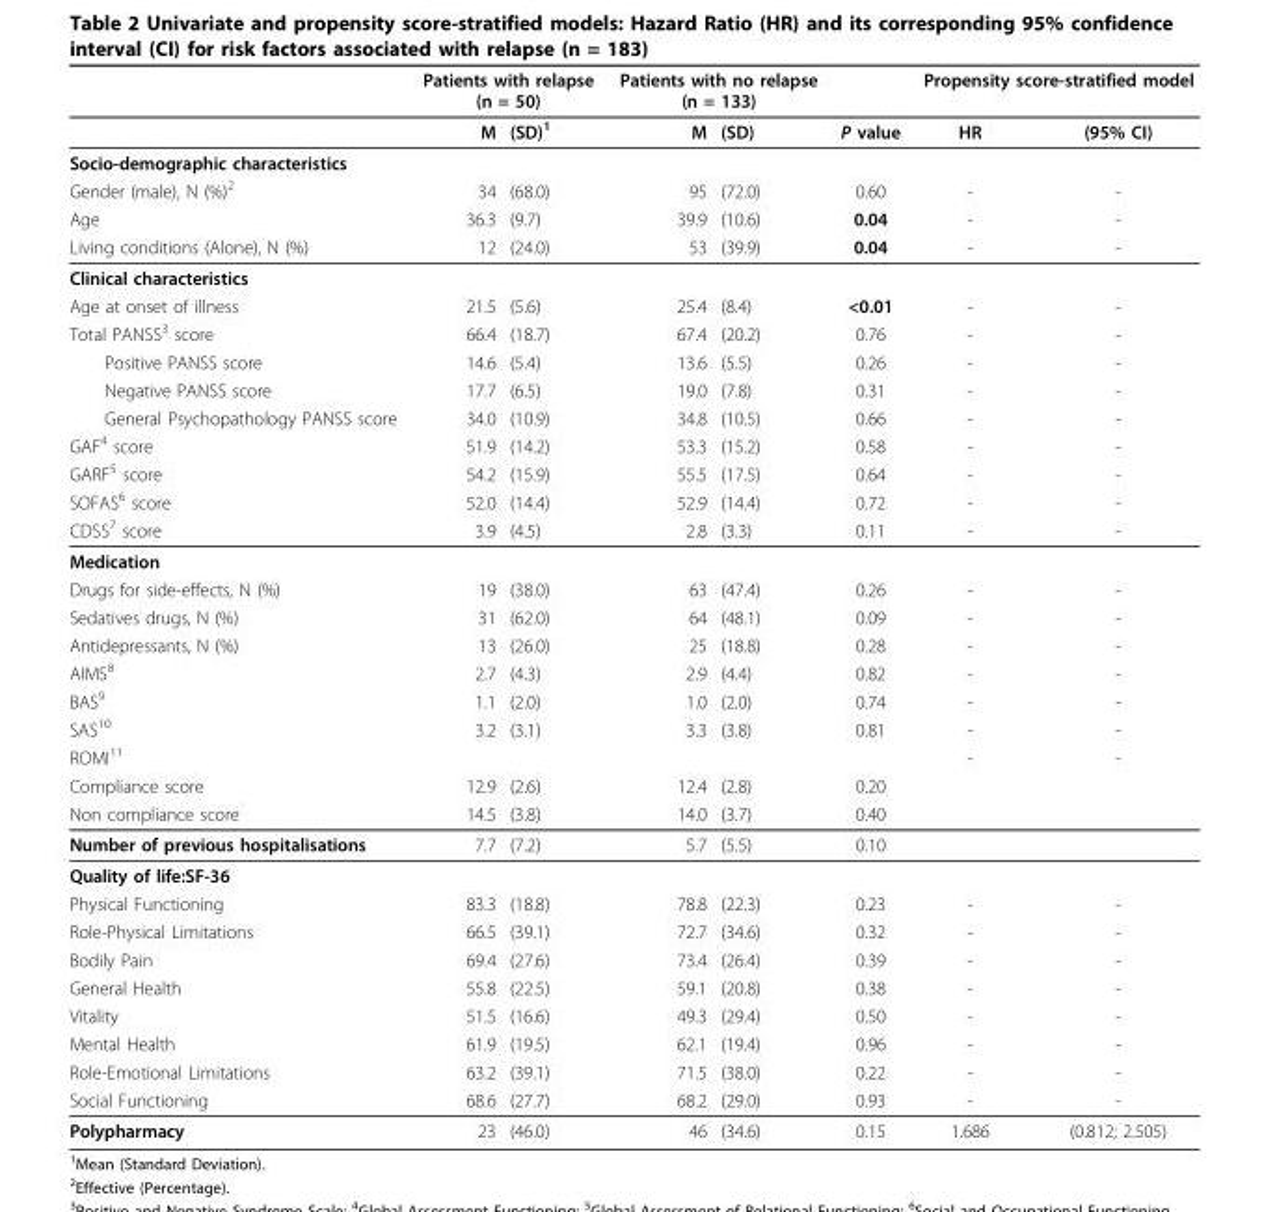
<table><thead><tr><td rowspan="2"></td><td colspan="2">Patients with relapse (n = 50)</td><td colspan="2">Patients with no relapse (n = 133)</td><td rowspan="2">P value</td><td colspan="2">Propensity score-stratified model</td></tr><tr><td>M</td><td>(SD)<sup>1</sup></td><td>M</td><td>(SD)</td><td>HR</td><td>(95% CI)</td></tr></thead><tbody><tr><td colspan="8">Socio-demographic characteristics</td></tr><tr><td>Gender (male), N (%)<sup>2</sup></td><td>34</td><td>(68.0)</td><td>95</td><td>(72.0)</td><td>0.60</td><td>-</td><td>-</td></tr><tr><td>Age</td><td>36.3</td><td>(9.7)</td><td>39.9</td><td>(10.6)</td><td>0.04</td><td>-</td><td>-</td></tr><tr><td>Living conditions (Alone), N (%)</td><td>12</td><td>(24.0)</td><td>53</td><td>(39.9)</td><td>0.04</td><td>-</td><td>-</td></tr><tr><td colspan="8">Clinical characteristics</td></tr><tr><td>Age at onset of illness</td><td>21.5</td><td>(5.6)</td><td>25.4</td><td>(8.4)</td><td>&lt;0.01</td><td>-</td><td>-</td></tr><tr><td>Total PANSS<sup>3</sup> score</td><td>66.4</td><td>(18.7)</td><td>67.4</td><td>(20.2)</td><td>0.76</td><td>-</td><td>-</td></tr><tr><td>Positive PANSS score</td><td>14.6</td><td>(5.4)</td><td>13.6</td><td>(5.5)</td><td>0.26</td><td>-</td><td>-</td></tr><tr><td>Negative PANSS score</td><td>17.7</td><td>(6.5)</td><td>19.0</td><td>(7.8)</td><td>0.31</td><td>-</td><td>-</td></tr><tr><td>General Psychopathology PANSS score</td><td>34.0</td><td>(10.9)</td><td>34.8</td><td>(10.5)</td><td>0.66</td><td>-</td><td>-</td></tr><tr><td>GAF<sup>4</sup> score</td><td>51.9</td><td>(14.2)</td><td>53.3</td><td>(15.2)</td><td>0.58</td><td>-</td><td>-</td></tr><tr><td>GARF<sup>5</sup> score</td><td>54.2</td><td>(15.9)</td><td>55.5</td><td>(17.5)</td><td>0.64</td><td>-</td><td>-</td></tr><tr><td>SOFAS<sup>6</sup> score</td><td>52.0</td><td>(14.4)</td><td>52.9</td><td>(14.4)</td><td>0.72</td><td>-</td><td>-</td></tr><tr><td>CDSS<sup>7</sup> score</td><td>3.9</td><td>(4.5)</td><td>2.8</td><td>(3.3)</td><td>0.11</td><td>-</td><td>-</td></tr><tr><td colspan="8">Medication</td></tr><tr><td>Drugs for side-effects, N (%)</td><td>19</td><td>(38.0)</td><td>63</td><td>(47.4)</td><td>0.26</td><td>-</td><td>-</td></tr><tr><td>Sedatives drugs, N (%)</td><td>31</td><td>(62.0)</td><td>64</td><td>(48.1)</td><td>0.09</td><td>-</td><td>-</td></tr><tr><td>Antidepressants, N (%)</td><td>13</td><td>(26.0)</td><td>25</td><td>(18.8)</td><td>0.28</td><td>-</td><td>-</td></tr><tr><td>AIMS<sup>8</sup></td><td>2.7</td><td>(4.3)</td><td>2.9</td><td>(4.4)</td><td>0.82</td><td>-</td><td>-</td></tr><tr><td>BAS<sup>9</sup></td><td>1.1</td><td>(2.0)</td><td>1.0</td><td>(2.0)</td><td>0.74</td><td>-</td><td>-</td></tr><tr><td>SAS<sup>10</sup></td><td>3.2</td><td>(3.1)</td><td>3.3</td><td>(3.8)</td><td>0.81</td><td>-</td><td>-</td></tr><tr><td>ROMI<sup>11</sup></td><td></td><td></td><td></td><td></td><td></td><td>-</td><td>-</td></tr><tr><td>Compliance score</td><td>12.9</td><td>(2.6)</td><td>12.4</td><td>(2.8)</td><td>0.20</td><td></td><td></td></tr><tr><td>Non compliance score</td><td>14.5</td><td>(3.8)</td><td>14.0</td><td>(3.7)</td><td>0.40</td><td></td><td></td></tr><tr><td>Number of previous hospitalisations</td><td>7.7</td><td>(7.2)</td><td>5.7</td><td>(5.5)</td><td>0.10</td><td></td><td></td></tr><tr><td colspan="8">Quality of life:SF-36</td></tr><tr><td>Physical Functioning</td><td>83.3</td><td>(18.8)</td><td>78.8</td><td>(22.3)</td><td>0.23</td><td>-</td><td>-</td></tr><tr><td>Role-Physical Limitations</td><td>66.5</td><td>(39.1)</td><td>72.7</td><td>(34.6)</td><td>0.32</td><td>-</td><td>-</td></tr><tr><td>Bodily Pain</td><td>69.4</td><td>(27.6)</td><td>73.4</td><td>(26.4)</td><td>0.39</td><td>-</td><td>-</td></tr><tr><td>General Health</td><td>55.8</td><td>(22.5)</td><td>59.1</td><td>(20.8)</td><td>0.38</td><td>-</td><td>-</td></tr><tr><td>Vitality</td><td>51.5</td><td>(16.6)</td><td>49.3</td><td>(29.4)</td><td>0.50</td><td>-</td><td>-</td></tr><tr><td>Mental Health</td><td>61.9</td><td>(19.5)</td><td>62.1</td><td>(19.4)</td><td>0.96</td><td>-</td><td>-</td></tr><tr><td>Role-Emotional Limitations</td><td>63.2</td><td>(39.1)</td><td>71.5</td><td>(38.0)</td><td>0.22</td><td>-</td><td>-</td></tr><tr><td>Social Functioning</td><td>68.6</td><td>(27.7)</td><td>68.2</td><td>(29.0)</td><td>0.93</td><td>-</td><td>-</td></tr><tr><td>Polypharmacy</td><td>23</td><td>(46.0)</td><td>46</td><td>(34.6)</td><td>0.15</td><td>1.686</td><td>(0.812; 2.505)</td></tr></tbody></table>